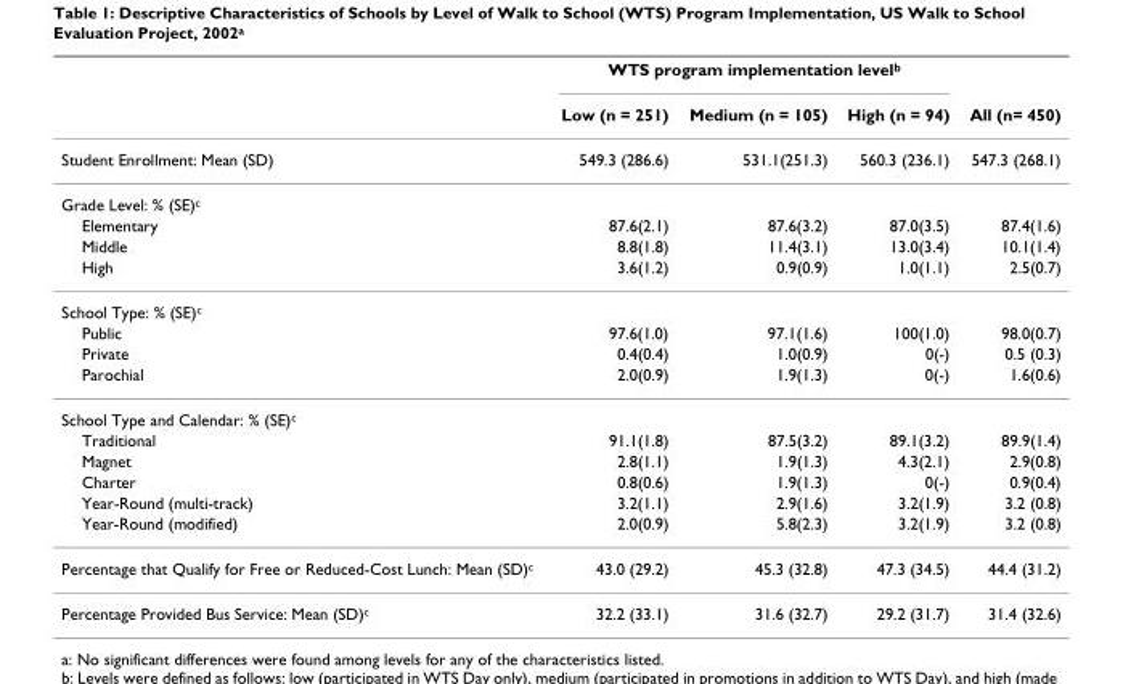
<table><thead><tr><td rowspan="2"></td><td colspan="3">WTS program implementation level<sup>b</sup></td><td rowspan="2">All (n= 450)</td></tr><tr><td>Low (n = 251)</td><td>Medium (n = 105)</td><td>High (n = 94)</td></tr></thead><tbody><tr><td>Student Enrollment: Mean (SD)</td><td>549.3 (286.6)</td><td>531.1(251.3)</td><td>560.3 (236.1)</td><td>547.3 (268.1)</td></tr><tr><td colspan="5">Grade Level: % (SE)<sup>c</sup></td></tr><tr><td>Elementary</td><td>87.6(2.1)</td><td>87.6(3.2)</td><td>87.0(3.5)</td><td>87.4(1.6)</td></tr><tr><td>Middle</td><td>8.8(1.8)</td><td>11.4(3.1)</td><td>13.0(3.4)</td><td>10.1(1.4)</td></tr><tr><td>High</td><td>3.6(1.2)</td><td>0.9(0.9)</td><td>1.0(1.1)</td><td>2.5(0.7)</td></tr><tr><td colspan="5">School Type: % (SE)<sup>c</sup></td></tr><tr><td>Public</td><td>97.6(1.0)</td><td>97.1(1.6)</td><td>100(1.0)</td><td>98.0(0.7)</td></tr><tr><td>Private</td><td>0.4(0.4)</td><td>1.0(0.9)</td><td>0(-)</td><td>0.5 (0.3)</td></tr><tr><td>Parochial</td><td>2.0(0.9)</td><td>1.9(1.3)</td><td>0(-)</td><td>1.6(0.6)</td></tr><tr><td colspan="5">School Type and Calendar: % (SE)<sup>c</sup></td></tr><tr><td>Traditional</td><td>91.1(1.8)</td><td>87.5(3.2)</td><td>89.1(3.2)</td><td>89.9(1.4)</td></tr><tr><td>Magnet</td><td>2.8(1.1)</td><td>1.9(1.3)</td><td>4.3(2.1)</td><td>2.9(0.8)</td></tr><tr><td>Charter</td><td>0.8(0.6)</td><td>1.9(1.3)</td><td>0(-)</td><td>0.9(0.4)</td></tr><tr><td>Year-Round (multi-track)</td><td>3.2(1.1)</td><td>2.9(1.6)</td><td>3.2(1.9)</td><td>3.2 (0.8)</td></tr><tr><td>Year-Round (modified)</td><td>2.0(0.9)</td><td>5.8(2.3)</td><td>3.2(1.9)</td><td>3.2 (0.8)</td></tr><tr><td>Percentage that Qualify for Free or Reduced-Cost Lunch: Mean (SD)<sup>c</sup></td><td>43.0 (29.2)</td><td>45.3 (32.8)</td><td>47.3 (34.5)</td><td>44.4 (31.2)</td></tr><tr><td>Percentage Provided Bus Service: Mean (SD)<sup>c</sup></td><td>32.2 (33.1)</td><td>31.6 (32.7)</td><td>29.2 (31.7)</td><td>31.4 (32.6)</td></tr></tbody></table>